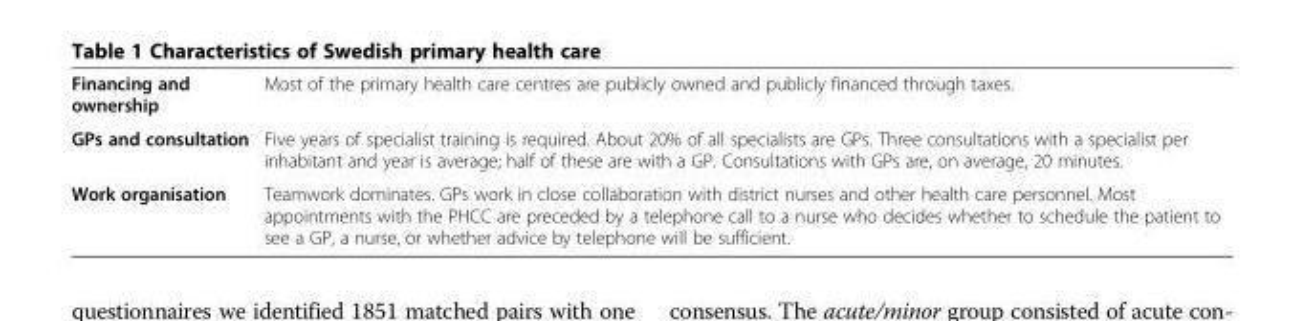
<table><tbody><tr><td>Financing and ownership</td><td>Most of the primary health care centres are publicly owned and publicly financed through taxes.</td></tr><tr><td>GPs and consultation</td><td>Five years of specialist training is required. About 20% of all specialists are GPs. Three consultations with a specialist per inhabitant and year is average; half of these are with a GP. Consultations with GPs are, on average, 20 minutes.</td></tr><tr><td>Work organisation</td><td>Teamwork dominates. GPs work in close collaboration with district nurses and other health care personnel. Most appointments with the PHCC are preceded by a telephone call to a nurse who decides whether to schedule the patient to see a GP, a nurse, or whether advice by telephone will be sufficient.</td></tr></tbody></table>